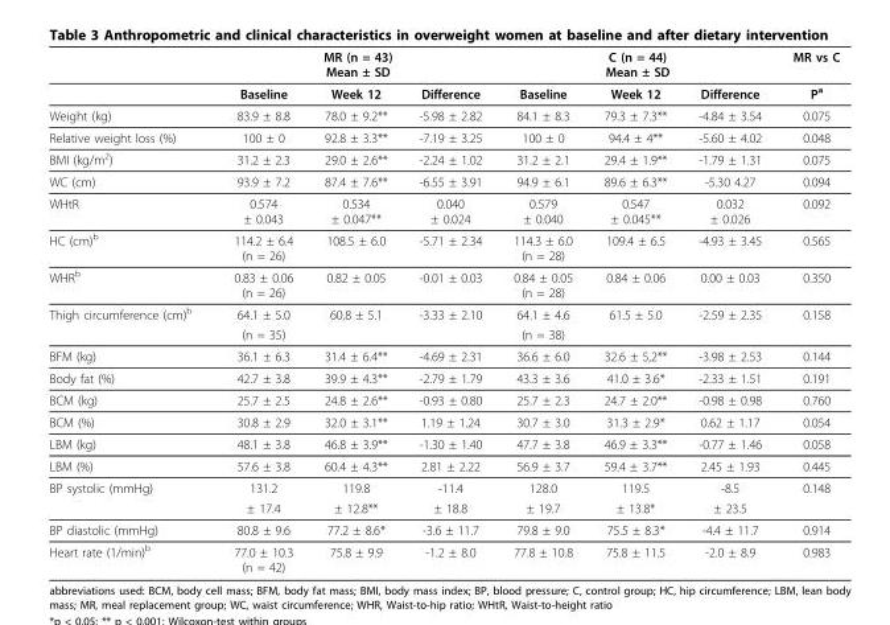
<table><thead><tr><td rowspan="2"></td><td colspan="3">MR (n = 43) Mean ± SD</td><td colspan="3">C (n = 44) Mean ± SD</td><td rowspan="2">MR vs C P<sup>a</sup></td></tr><tr><td>Baseline</td><td>Week 12</td><td>Difference</td><td>Baseline</td><td>Week 12</td><td>Difference</td></tr></thead><tbody><tr><td>Weight (kg)</td><td>83.9 ± 8.8</td><td>78.0 ± 9.2**</td><td>-5.98 ± 2.82</td><td>84.1 ± 8.3</td><td>79.3 ± 7.3**</td><td>-4.84 ± 3.54</td><td>0.075</td></tr><tr><td>Relative weight loss (%)</td><td>100 ± 0</td><td>92.8 ± 3.3**</td><td>-7.19 ± 3.25</td><td>100 ± 0</td><td>94.4 ± 4**</td><td>-5.60 ± 4.02</td><td>0.048</td></tr><tr><td>BMI (kg/m<sup>2</sup>)</td><td>31.2 ± 2.3</td><td>29.0 ± 2.6**</td><td>-2.24 ± 1.02</td><td>31.2 ± 2.1</td><td>29.4 ± 1.9**</td><td>-1.79 ± 1.31</td><td>0.075</td></tr><tr><td>WC (cm)</td><td>93.9 ± 7.2</td><td>87.4 ± 7.6**</td><td>-6.55 ± 3.91</td><td>94.9 ± 6.1</td><td>89.6 ± 6.3**</td><td>-5.30 4.27</td><td>0.094</td></tr><tr><td>WHtR</td><td>0.574 ± 0.043</td><td>0.534 ± 0.047**</td><td>0.040 ± 0.024</td><td>0.579 ± 0.040</td><td>0.547 ± 0.045**</td><td>0.032 ± 0.026</td><td>0.092</td></tr><tr><td>HC (cm)<sup>b</sup></td><td>114.2 ± 6.4 (n = 26)</td><td>108.5 ± 6.0</td><td>-5.71 ± 2.34</td><td>114.3 ± 6.0 (n = 28)</td><td>109.4 ± 6.5</td><td>-4.93 ± 3.45</td><td>0.565</td></tr><tr><td>WHR<sup>b</sup></td><td>0.83 ± 0.06 (n = 26)</td><td>0.82 ± 0.05</td><td>-0.01 ± 0.03</td><td>0.84 ± 0.05 (n = 28)</td><td>0.84 ± 0.06</td><td>0.00 ± 0.03</td><td>0.350</td></tr><tr><td rowspan="2">Thigh circumference (cm)<sup>b</sup></td><td>64.1 ± 5.0</td><td>60.8 ± 5.1</td><td>-3.33 ± 2.10</td><td>64.1 ± 4.6</td><td>61.5 ± 5.0</td><td>-2.59 ± 2.35</td><td>0.158</td></tr><tr><td>(n = 35)</td><td></td><td></td><td>(n = 38)</td><td></td><td></td><td></td></tr><tr><td>BFM (kg)</td><td>36.1 ± 6.3</td><td>31.4 ± 6.4**</td><td>-4.69 ± 2.31</td><td>36.6 ± 6.0</td><td>32.6 ± 5,2**</td><td>-3.98 ± 2.53</td><td>0.144</td></tr><tr><td>Body fat (%)</td><td>42.7 ± 3.8</td><td>39.9 ± 4.3**</td><td>-2.79 ± 1.79</td><td>43.3 ± 3.6</td><td>41.0 ± 3.6*</td><td>-2.33 ± 1.51</td><td>0.191</td></tr><tr><td>BCM (kg)</td><td>25.7 ± 2.5</td><td>24.8 ± 2.6**</td><td>-0.93 ± 0.80</td><td>25.7 ± 2.3</td><td>24.7 ± 2.0**</td><td>-0.98 ± 0.98</td><td>0.760</td></tr><tr><td>BCM (%)</td><td>30.8 ± 2.9</td><td>32.0 ± 3.1**</td><td>1.19 ± 1.24</td><td>30.7 ± 3.0</td><td>31.3 ± 2.9*</td><td>0.62 ± 1.17</td><td>0.054</td></tr><tr><td>LBM (kg)</td><td>48.1 ± 3.8</td><td>46.8 ± 3.9**</td><td>-1.30 ± 1.40</td><td>47.7 ± 3.8</td><td>46.9 ± 3.3**</td><td>-0.77 ± 1.46</td><td>0.058</td></tr><tr><td>LBM (%)</td><td>57.6 ± 3.8</td><td>60.4 ± 4.3**</td><td>2.81 ± 2.22</td><td>56.9 ± 3.7</td><td>59.4 ± 3.7**</td><td>2.45 ± 1.93</td><td>0.445</td></tr><tr><td rowspan="2">BP systolic (mmHg)</td><td>131.2</td><td>119.8</td><td>-11.4</td><td>128.0</td><td>119.5</td><td>-8.5</td><td>0.148</td></tr><tr><td>± 17.4</td><td>± 12.8**</td><td>± 18.8</td><td>± 19.7</td><td>± 13.8*</td><td>± 23.5</td><td></td></tr><tr><td>BP diastolic (mmHg)</td><td>80.8 ± 9.6</td><td>77.2 ± 8.6*</td><td>-3.6 ± 11.7</td><td>79.8 ± 9.0</td><td>75.5 ± 8.3*</td><td>-4.4 ± 11.7</td><td>0.914</td></tr><tr><td>Heart rate (1/min)<sup>b</sup></td><td>77.0 ± 10.3 (n = 42)</td><td>75.8 ± 9.9</td><td>-1.2 ± 8.0</td><td>77.8 ± 10.8</td><td>75.8 ± 11.5</td><td>-2.0 ± 8.9</td><td>0.983</td></tr></tbody></table>